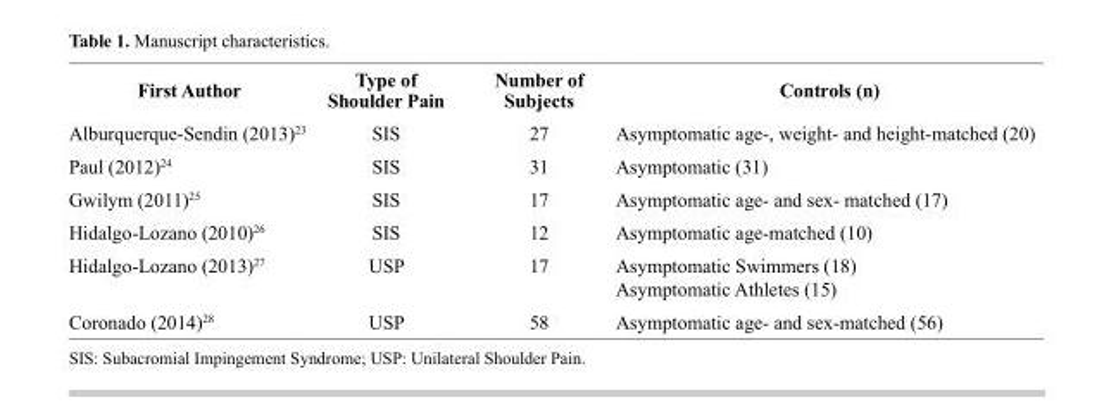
<table><thead><tr><td>First Author</td><td>Type of Shoulder Pain</td><td>Number of Subjects</td><td>Controls (n)</td></tr></thead><tbody><tr><td>Alburquerque-Sendin (2013)<sup>23</sup></td><td>SIS</td><td>27</td><td>Asymptomatic age-, weight- and height-matched (20)</td></tr><tr><td>Paul (2012)<sup>24</sup></td><td>SIS</td><td>31</td><td>Asymptomatic (31)</td></tr><tr><td>Gwilym (2011)<sup>25</sup></td><td>SIS</td><td>17</td><td>Asymptomatic age- and sex- matched (17)</td></tr><tr><td>Hidalgo-Lozano (2010)<sup>26</sup></td><td>SIS</td><td>12</td><td>Asymptomatic age-matched (10)</td></tr><tr><td>Hidalgo-Lozano (2013)<sup>27</sup></td><td>USP</td><td>17</td><td>Asymptomatic Swimmers (18) Asymptomatic Athletes (15)</td></tr><tr><td>Coronado (2014)<sup>28</sup></td><td>USP</td><td>58</td><td>Asymptomatic age- and sex-matched (56)</td></tr></tbody></table>